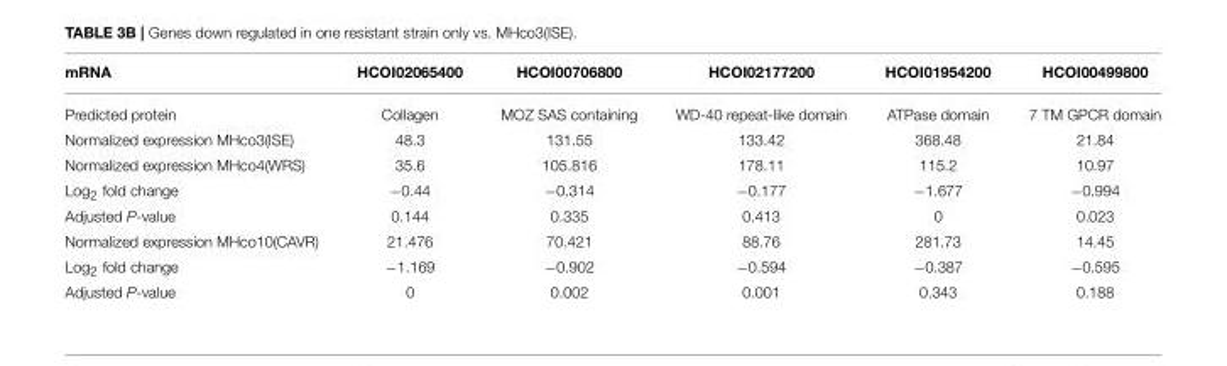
<table><thead><tr><td>mRNA</td><td>HCOI02065400</td><td>HCOI00706800</td><td>HCOI02177200</td><td>HCOI01954200</td><td>HCOI00499800</td></tr></thead><tbody><tr><td>Predicted protein</td><td>Collagen</td><td>MOZ SAS containing</td><td>WD-40 repeat-like domain</td><td>ATPase domain</td><td>7 TM GPCR domain</td></tr><tr><td>Normalized expression MHco3(ISE)</td><td>48.3</td><td>131.55</td><td>133.42</td><td>368.48</td><td>21.84</td></tr><tr><td>Normalized expression MHco4(WRS)</td><td>35.6</td><td>105.816</td><td>178.11</td><td>115.2</td><td>10.97</td></tr><tr><td>Log<sub>2</sub> fold change</td><td>−0.44</td><td>−0.314</td><td>−0.177</td><td>−1.677</td><td>−0.994</td></tr><tr><td>Adjusted P-value</td><td>0.144</td><td>0.335</td><td>0.413</td><td>0</td><td>0.023</td></tr><tr><td>Normalized expression MHco10(CAVR)</td><td>21.476</td><td>70.421</td><td>88.76</td><td>281.73</td><td>14.45</td></tr><tr><td>Log<sub>2</sub> fold change</td><td>−1.169</td><td>−0.902</td><td>−0.594</td><td>−0.387</td><td>−0.595</td></tr><tr><td>Adjusted P-value</td><td>0</td><td>0.002</td><td>0.001</td><td>0.343</td><td>0.188</td></tr></tbody></table>